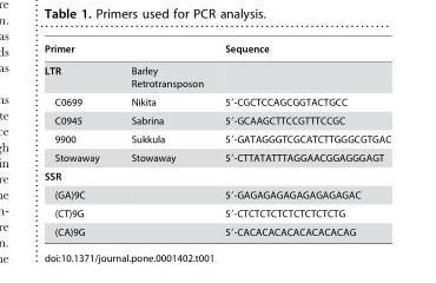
<table><thead><tr><td>Primer</td><td></td><td>Sequence</td></tr></thead><tbody><tr><td>LTR</td><td>Barley Retrotransposon</td><td></td></tr><tr><td>C0699</td><td>Nikita</td><td>5′-CGCTCCAGCGGTACTGCC</td></tr><tr><td>C0945</td><td>Sabrina</td><td>5′-GCAAGCTTCCGTTTCCGC</td></tr><tr><td>9900</td><td>Sukkula</td><td>5′-GATAGGGTCGCATCTTGGGCGTGAC</td></tr><tr><td>Stowaway</td><td>Stowaway</td><td>5′-CTTATATTTAGGAACGGAGGGAGT</td></tr><tr><td colspan="3">SSR</td></tr><tr><td>(GA)9C</td><td></td><td>5′-GAGAGAGAGAGAGAGAGAC</td></tr><tr><td>(CT)9G</td><td></td><td>5′-CTCTCTCTCTCTCTCTCTG</td></tr><tr><td>(CA)9G</td><td></td><td>5′-CACACACACACACACACAG</td></tr></tbody></table>